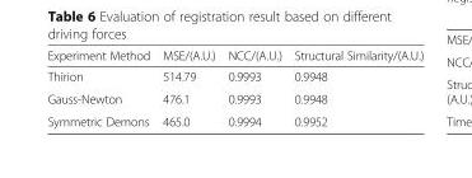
<table><thead><tr><td>Experiment Method</td><td>MSE/(A.U.)</td><td>NCC/(A.U.)</td><td>Structural Similarity/(A.U.)</td></tr></thead><tbody><tr><td>Thirion</td><td>514.79</td><td>0.9993</td><td>0.9948</td></tr><tr><td>Gauss-Newton</td><td>476.1</td><td>0.9993</td><td>0.9948</td></tr><tr><td>Symmetric Demons</td><td>465.0</td><td>0.9994</td><td>0.9952</td></tr></tbody></table>